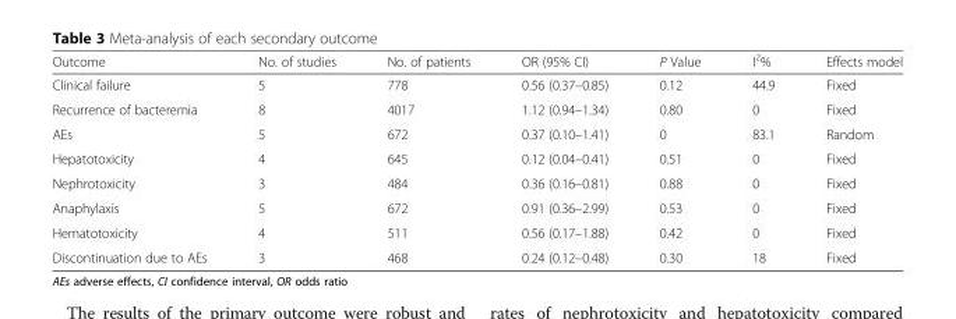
<table><thead><tr><td>Outcome</td><td>No. of studies</td><td>No. of patients</td><td>OR (95% CI)</td><td>P Value</td><td>I<sup>2</sup>%</td><td>Effects model</td></tr></thead><tbody><tr><td>Clinical failure</td><td>5</td><td>778</td><td>0.56 (0.37–0.85)</td><td>0.12</td><td>44.9</td><td>Fixed</td></tr><tr><td>Recurrence of bacteremia</td><td>8</td><td>4017</td><td>1.12 (0.94–1.34)</td><td>0.80</td><td>0</td><td>Fixed</td></tr><tr><td>AEs</td><td>5</td><td>672</td><td>0.37 (0.10–1.41)</td><td>0</td><td>83.1</td><td>Random</td></tr><tr><td>Hepatotoxicity</td><td>4</td><td>645</td><td>0.12 (0.04–0.41)</td><td>0.51</td><td>0</td><td>Fixed</td></tr><tr><td>Nephrotoxicity</td><td>3</td><td>484</td><td>0.36 (0.16–0.81)</td><td>0.88</td><td>0</td><td>Fixed</td></tr><tr><td>Anaphylaxis</td><td>5</td><td>672</td><td>0.91 (0.36–2.99)</td><td>0.53</td><td>0</td><td>Fixed</td></tr><tr><td>Hematotoxicity</td><td>4</td><td>511</td><td>0.56 (0.17–1.88)</td><td>0.42</td><td>0</td><td>Fixed</td></tr><tr><td>Discontinuation due to AEs</td><td>3</td><td>468</td><td>0.24 (0.12–0.48)</td><td>0.30</td><td>18</td><td>Fixed</td></tr></tbody></table>